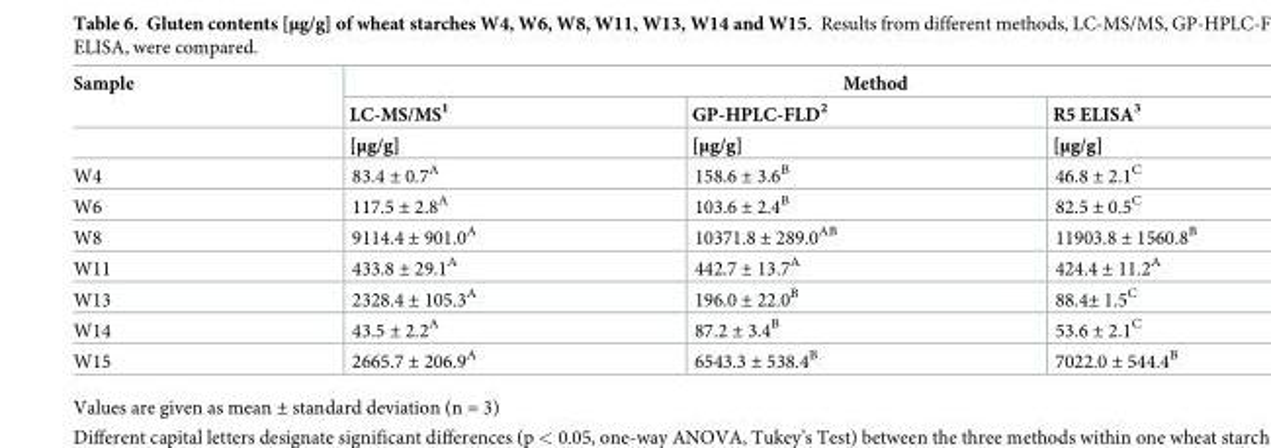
<table><thead><tr><td rowspan="3">Sample</td><td colspan="3">Method</td></tr><tr><td rowspan="2">LC-MS/MS<sup>1</sup> [μg/g]</td><td rowspan="2">GP-HPLC-FLD<sup>2</sup> [μg/g]</td><td rowspan="2">R5 ELISA<sup>3</sup> [μg/g]</td></tr><tr></tr></thead><tbody><tr><td>W4</td><td>83.4 ± 0.7<sup>A</sup></td><td>158.6 ± 3.6<sup>B</sup></td><td>46.8 ± 2.1<sup>C</sup></td></tr><tr><td>W6</td><td>117.5 ± 2.8<sup>A</sup></td><td>103.6 ± 2.4<sup>B</sup></td><td>82.5 ± 0.5<sup>C</sup></td></tr><tr><td>W8</td><td>9114.4 ± 901.0<sup>A</sup></td><td>10371.8 ± 289.0<sup>AB</sup></td><td>11903.8 ± 1560.8<sup>B</sup></td></tr><tr><td>W11</td><td>433.8 ± 29.1<sup>A</sup></td><td>442.7 ± 13.7<sup>A</sup></td><td>424.4 ± 11.2<sup>A</sup></td></tr><tr><td>W13</td><td>2328.4 ± 105.3<sup>A</sup></td><td>196.0 ± 22.0<sup>B</sup></td><td>88.4± 1.5<sup>C</sup></td></tr><tr><td>W14</td><td>43.5 ± 2.2<sup>A</sup></td><td>87.2 ± 3.4<sup>B</sup></td><td>53.6 ± 2.1<sup>C</sup></td></tr><tr><td>W15</td><td>2665.7 ± 206.9<sup>A</sup></td><td>6543.3 ± 538.4<sup>B</sup></td><td>7022.0 ± 544.4<sup>B</sup></td></tr></tbody></table>